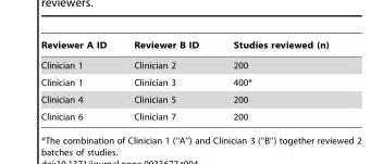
<table><thead><tr><td>Reviewer A ID</td><td>Reviewer B ID</td><td>Studies reviewed (n)</td></tr></thead><tbody><tr><td>Clinician 1</td><td>Clinician 2</td><td>200</td></tr><tr><td>Clinician 1</td><td>Clinician 3</td><td>400*</td></tr><tr><td>Clinician 4</td><td>Clinician 5</td><td>200</td></tr><tr><td>Clinician 6</td><td>Clinician 7</td><td>200</td></tr></tbody></table>